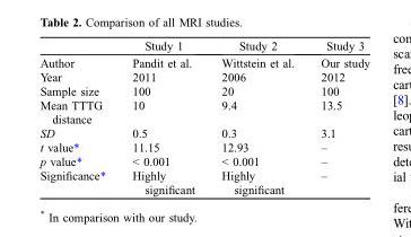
<table><thead><tr><td></td><td>Study 1</td><td>Study 2</td><td>Study 3</td></tr></thead><tbody><tr><td>Author</td><td>Pandit et al.</td><td>Wittstein et al.</td><td>Our study</td></tr><tr><td>Year</td><td>2011</td><td>2006</td><td>2012</td></tr><tr><td>Sample size</td><td>100</td><td>20</td><td>100</td></tr><tr><td>Mean TTTG distance</td><td>10</td><td>9.4</td><td>13.5</td></tr><tr><td>SD</td><td>0.5</td><td>0.3</td><td>3.1</td></tr><tr><td>t value*</td><td>11.15</td><td>12.93</td><td>–</td></tr><tr><td>p value*</td><td>&lt; 0.001</td><td>&lt; 0.001</td><td>–</td></tr><tr><td>Significance*</td><td>Highly significant</td><td>Highly significant</td><td>–</td></tr></tbody></table>